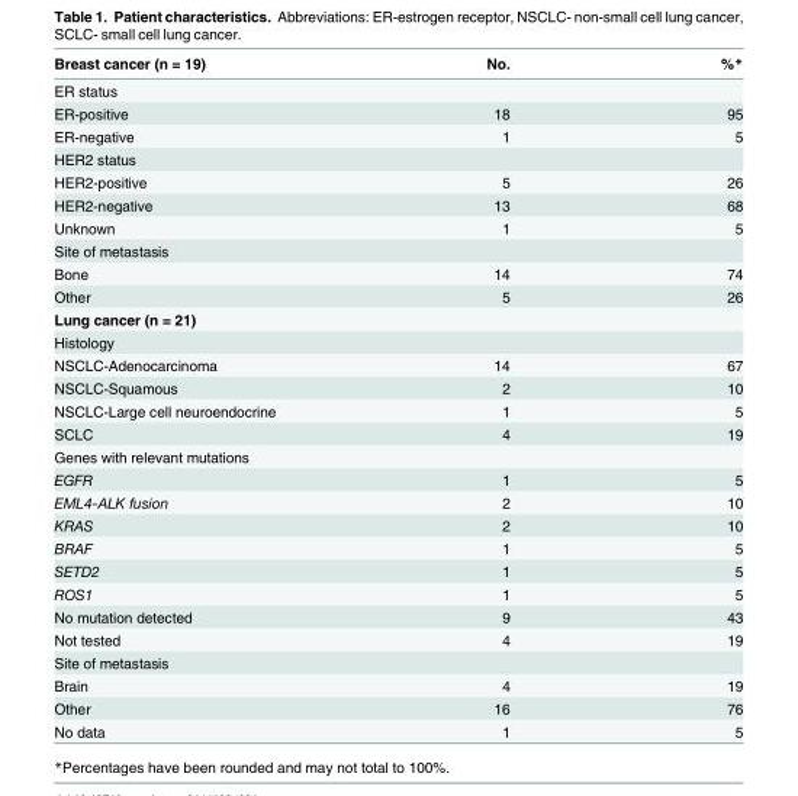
<table><thead><tr><td>Breast cancer (n = 19)</td><td>No.</td><td>%*</td></tr></thead><tbody><tr><td colspan="3">ER status</td></tr><tr><td>ER-positive</td><td>18</td><td>95</td></tr><tr><td>ER-negative</td><td>1</td><td>5</td></tr><tr><td colspan="3">HER2 status</td></tr><tr><td>HER2-positive</td><td>5</td><td>26</td></tr><tr><td>HER2-negative</td><td>13</td><td>68</td></tr><tr><td>Unknown</td><td>1</td><td>5</td></tr><tr><td colspan="3">Site of metastasis</td></tr><tr><td>Bone</td><td>14</td><td>74</td></tr><tr><td>Other</td><td>5</td><td>26</td></tr><tr><td colspan="3">Lung cancer (n = 21)</td></tr><tr><td colspan="3">Histology</td></tr><tr><td>NSCLC-Adenocarcinoma</td><td>14</td><td>67</td></tr><tr><td>NSCLC-Squamous</td><td>2</td><td>10</td></tr><tr><td>NSCLC-Large cell neuroendocrine</td><td>1</td><td>5</td></tr><tr><td>SCLC</td><td>4</td><td>19</td></tr><tr><td colspan="3">Genes with relevant mutations</td></tr><tr><td>EGFR</td><td>1</td><td>5</td></tr><tr><td>EML4-ALK fusion</td><td>2</td><td>10</td></tr><tr><td>KRAS</td><td>2</td><td>10</td></tr><tr><td>BRAF</td><td>1</td><td>5</td></tr><tr><td>SETD2</td><td>1</td><td>5</td></tr><tr><td>ROS1</td><td>1</td><td>5</td></tr><tr><td>No mutation detected</td><td>9</td><td>43</td></tr><tr><td>Not tested</td><td>4</td><td>19</td></tr><tr><td colspan="3">Site of metastasis</td></tr><tr><td>Brain</td><td>4</td><td>19</td></tr><tr><td>Other</td><td>16</td><td>76</td></tr><tr><td>No data</td><td>1</td><td>5</td></tr></tbody></table>